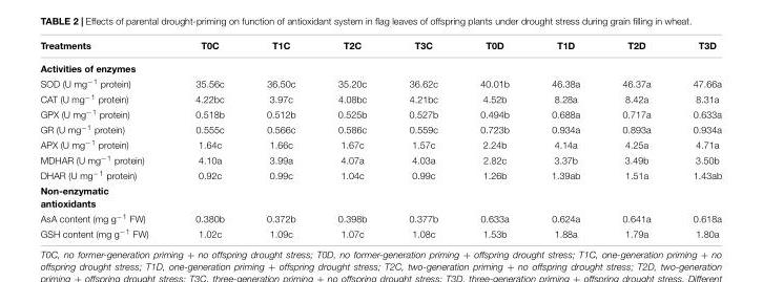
<table><thead><tr><td>Treatments</td><td>T0C</td><td>T1C</td><td>T2C</td><td>T3C</td><td>T0D</td><td>T1D</td><td>T2D</td><td>T3D</td></tr></thead><tbody><tr><td colspan="9">Activities of enzymes</td></tr><tr><td>SOD (U mg<sup>−1</sup> protein)</td><td>35.56c</td><td>36.50c</td><td>35.20c</td><td>36.62c</td><td>40.01b</td><td>46.38a</td><td>46.37a</td><td>47.66a</td></tr><tr><td>CAT (U mg<sup>−1</sup> protein)</td><td>4.22bc</td><td>3.97c</td><td>4.08bc</td><td>4.21bc</td><td>4.52b</td><td>8.28a</td><td>8.42a</td><td>8.31a</td></tr><tr><td>GPX (U mg<sup>−1</sup> protein)</td><td>0.518b</td><td>0.512b</td><td>0.525b</td><td>0.527b</td><td>0.494b</td><td>0.688a</td><td>0.717a</td><td>0.633a</td></tr><tr><td>GR (U mg<sup>−1</sup> protein)</td><td>0.555c</td><td>0.566c</td><td>0.586c</td><td>0.559c</td><td>0.723b</td><td>0.934a</td><td>0.893a</td><td>0.934a</td></tr><tr><td>APX (U mg<sup>−1</sup> protein)</td><td>1.64c</td><td>1.66c</td><td>1.67c</td><td>1.57c</td><td>2.24b</td><td>4.14a</td><td>4.25a</td><td>4.71a</td></tr><tr><td>MDHAR (U mg<sup>−1</sup> protein)</td><td>4.10a</td><td>3.99a</td><td>4.07a</td><td>4.03a</td><td>2.82c</td><td>3.37b</td><td>3.49b</td><td>3.50b</td></tr><tr><td>DHAR (U mg<sup>−1</sup> protein)</td><td>0.92c</td><td>0.99c</td><td>1.04c</td><td>0.99c</td><td>1.26b</td><td>1.39ab</td><td>1.51a</td><td>1.43ab</td></tr><tr><td colspan="9">Non-enzymatic antioxidants</td></tr><tr><td>AsA content (mg g<sup>−1</sup> FW)</td><td>0.380b</td><td>0.372b</td><td>0.398b</td><td>0.377b</td><td>0.633a</td><td>0.624a</td><td>0.641a</td><td>0.618a</td></tr><tr><td>GSH content (mg g<sup>−1</sup> FW)</td><td>1.02c</td><td>1.09c</td><td>1.07c</td><td>1.08c</td><td>1.53b</td><td>1.88a</td><td>1.79a</td><td>1.80a</td></tr></tbody></table>